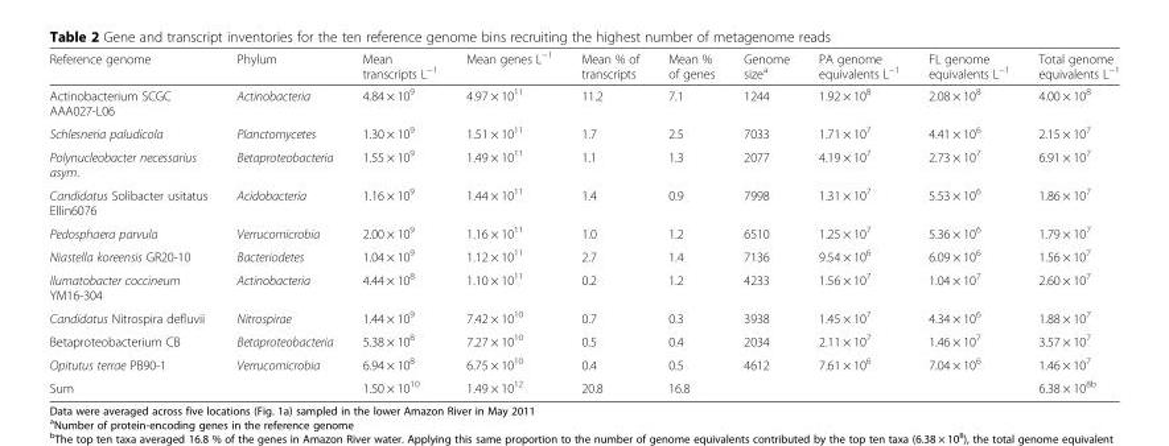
<table><thead><tr><td>Reference genome</td><td>Phylum</td><td>Mean transcripts L<sup>−1</sup></td><td>Mean genes L<sup>−1</sup></td><td>Mean % of transcripts</td><td>Mean % of genes</td><td>Genome size<sup>a</sup></td><td>PA genome equivalents L<sup>−1</sup></td><td>FL genome equivalents L<sup>−1</sup></td><td>Total genome equivalents L<sup>−1</sup></td></tr></thead><tbody><tr><td>Actinobacterium SCGC AAA027-L06</td><td>Actinobacteria</td><td>4.84 × 10<sup>9</sup></td><td>4.97 × 10<sup>11</sup></td><td>11.2</td><td>7.1</td><td>1244</td><td>1.92 × 10<sup>8</sup></td><td>2.08 × 10<sup>8</sup></td><td>4.00 × 10<sup>8</sup></td></tr><tr><td>Schlesneria paludicola</td><td>Planctomycetes</td><td>1.30 × 10<sup>9</sup></td><td>1.51 × 10<sup>11</sup></td><td>1.7</td><td>2.5</td><td>7033</td><td>1.71 × 10<sup>7</sup></td><td>4.41 × 10<sup>6</sup></td><td>2.15 × 10<sup>7</sup></td></tr><tr><td>Polynucleobacter necessarius asym.</td><td>Betaproteobacteria</td><td>1.55 × 10<sup>9</sup></td><td>1.49 × 10<sup>11</sup></td><td>1.1</td><td>1.3</td><td>2077</td><td>4.19 × 10<sup>7</sup></td><td>2.73 × 10<sup>7</sup></td><td>6.91 × 10<sup>7</sup></td></tr><tr><td>Candidatus Solibacter usitatus Ellin6076</td><td>Acidobacteria</td><td>1.16 × 10<sup>9</sup></td><td>1.44 × 10<sup>11</sup></td><td>1.4</td><td>0.9</td><td>7998</td><td>1.31 × 10<sup>7</sup></td><td>5.53 × 10<sup>6</sup></td><td>1.86 × 10<sup>7</sup></td></tr><tr><td>Pedosphaera parvula</td><td>Verrucomicrobia</td><td>2.00 × 10<sup>9</sup></td><td>1.16 × 10<sup>11</sup></td><td>1.0</td><td>1.2</td><td>6510</td><td>1.25 × 10<sup>7</sup></td><td>5.36 × 10<sup>6</sup></td><td>1.79 × 10<sup>7</sup></td></tr><tr><td>Niastella koreensis GR20-10</td><td>Bacteriodetes</td><td>1.04 × 10<sup>9</sup></td><td>1.12 × 10<sup>11</sup></td><td>2.7</td><td>1.4</td><td>7136</td><td>9.54 × 10<sup>6</sup></td><td>6.09 × 10<sup>6</sup></td><td>1.56 × 10<sup>7</sup></td></tr><tr><td>Ilumatobacter coccineum YM16-304</td><td>Actinobacteria</td><td>4.44 × 10<sup>8</sup></td><td>1.10 × 10<sup>11</sup></td><td>0.2</td><td>1.2</td><td>4233</td><td>1.56 × 10<sup>7</sup></td><td>1.04 × 10<sup>7</sup></td><td>2.60 × 10<sup>7</sup></td></tr><tr><td>Candidatus Nitrospira defluvii</td><td>Nitrospirae</td><td>1.44 × 10<sup>9</sup></td><td>7.42 × 10<sup>10</sup></td><td>0.7</td><td>0.3</td><td>3938</td><td>1.45 × 10<sup>7</sup></td><td>4.34 × 10<sup>6</sup></td><td>1.88 × 10<sup>7</sup></td></tr><tr><td>Betaproteobacterium CB</td><td>Betaproteobacteria</td><td>5.38 × 10<sup>8</sup></td><td>7.27 × 10<sup>10</sup></td><td>0.5</td><td>0.4</td><td>2034</td><td>2.11 × 10<sup>7</sup></td><td>1.46 × 10<sup>7</sup></td><td>3.57 × 10<sup>7</sup></td></tr><tr><td>Opitutus terrae PB90-1</td><td>Verrucomicrobia</td><td>6.94 × 10<sup>8</sup></td><td>6.75 × 10<sup>10</sup></td><td>0.4</td><td>0.5</td><td>4612</td><td>7.61 × 10<sup>6</sup></td><td>7.04 × 10<sup>6</sup></td><td>1.46 × 10<sup>7</sup></td></tr><tr><td>Sum</td><td></td><td>1.50 × 10<sup>10</sup></td><td>1.49 × 10<sup>12</sup></td><td>20.8</td><td>16.8</td><td></td><td></td><td></td><td>6.38 × 10<sup>8b</sup></td></tr></tbody></table>